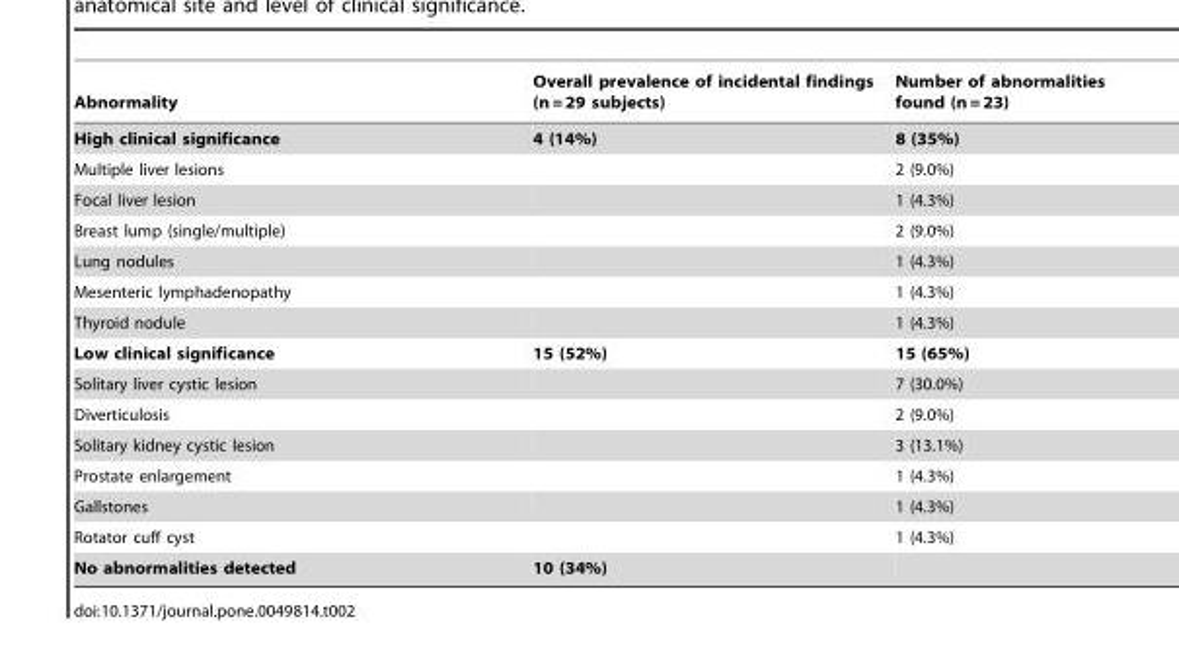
<table><thead><tr><td>Abnormality</td><td>Overall prevalence of incidental findings (n = 29 subjects)</td><td>Number of abnormalities found (n = 23)</td></tr></thead><tbody><tr><td>High clinical significance</td><td>4 (14%)</td><td>8 (35%)</td></tr><tr><td>Multiple liver lesions</td><td></td><td>2 (9.0%)</td></tr><tr><td>Focal liver lesion</td><td></td><td>1 (4.3%)</td></tr><tr><td>Breast lump (single/multiple)</td><td></td><td>2 (9.0%)</td></tr><tr><td>Lung nodules</td><td></td><td>1 (4.3%)</td></tr><tr><td>Mesenteric lymphadenopathy</td><td></td><td>1 (4.3%)</td></tr><tr><td>Thyroid nodule</td><td></td><td>1 (4.3%)</td></tr><tr><td>Low clinical significance</td><td>15 (52%)</td><td>15 (65%)</td></tr><tr><td>Solitary liver cystic lesion</td><td></td><td>7 (30.0%)</td></tr><tr><td>Diverticulosis</td><td></td><td>2 (9.0%)</td></tr><tr><td>Solitary kidney cystic lesion</td><td></td><td>3 (13.1%)</td></tr><tr><td>Prostate enlargement</td><td></td><td>1 (4.3%)</td></tr><tr><td>Gallstones</td><td></td><td>1 (4.3%)</td></tr><tr><td>Rotator cuff cyst</td><td></td><td>1 (4.3%)</td></tr><tr><td>No abnormalities detected</td><td>10 (34%)</td><td></td></tr></tbody></table>